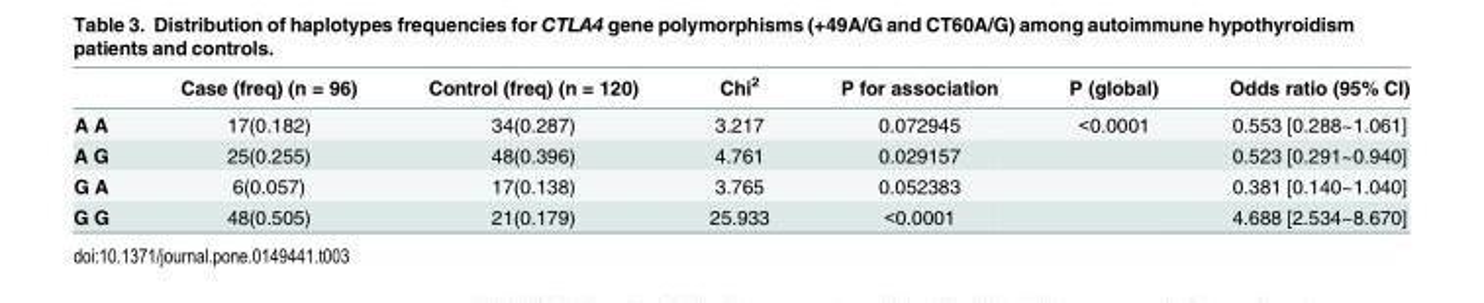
<table><thead><tr><td></td><td>Case (freq) (n = 96)</td><td>Control (freq) (n = 120)</td><td>Chi<sup>2</sup></td><td>P for association</td><td>P (global)</td><td>Odds ratio (95% CI)</td></tr></thead><tbody><tr><td>A A</td><td>17(0.182)</td><td>34(0.287)</td><td>3.217</td><td>0.072945</td><td>&lt;0.0001</td><td>0.553 [0.288~1.061]</td></tr><tr><td>A G</td><td>25(0.255)</td><td>48(0.396)</td><td>4.761</td><td>0.029157</td><td></td><td>0.523 [0.291~0.940]</td></tr><tr><td>G A</td><td>6(0.057)</td><td>17(0.138)</td><td>3.765</td><td>0.052383</td><td></td><td>0.381 [0.140~1.040]</td></tr><tr><td>G G</td><td>48(0.505)</td><td>21(0.179)</td><td>25.933</td><td>&lt;0.0001</td><td></td><td>4.688 [2.534~8.670]</td></tr></tbody></table>